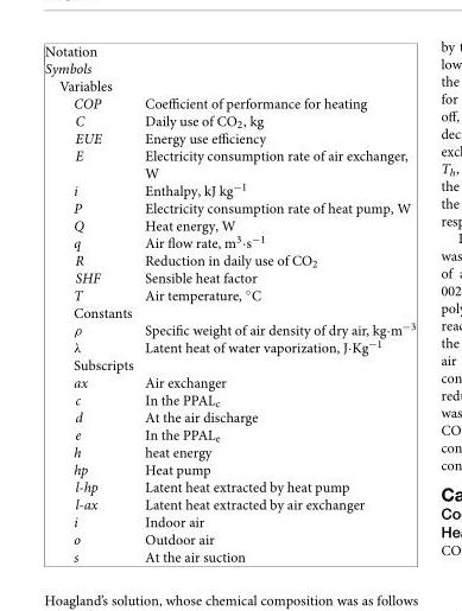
<table><tbody><tr><td colspan="2">Notation</td></tr><tr><td colspan="2">Symbols</td></tr><tr><td colspan="2">Variables</td></tr><tr><td>COP</td><td>Coefficient of performance for heating</td></tr><tr><td>C</td><td>Daily use of CO<sub>2</sub>, kg</td></tr><tr><td>EUE</td><td>Energy use efficiency</td></tr><tr><td>E</td><td>Electricity consumption rate of air exchanger, W</td></tr><tr><td>i</td><td>Enthalpy, kJ kg<sup>−1</sup></td></tr><tr><td>P</td><td>Electricity consumption rate of heat pump, W</td></tr><tr><td>Q</td><td>Heat energy, W</td></tr><tr><td>q</td><td>Air flow rate, m<sup>3</sup>·s<sup>−1</sup></td></tr><tr><td>R</td><td>Reduction in daily use of CO<sub>2</sub></td></tr><tr><td>SHF</td><td>Sensible heat factor</td></tr><tr><td>T</td><td>Air temperature, ◦C</td></tr><tr><td colspan="2">Constants</td></tr><tr><td>ρ</td><td>Specific weight of air density of dry air, kg·m<sup>−3</sup></td></tr><tr><td>λ</td><td>Latent heat of water vaporization, J·Kg<sup>−1</sup></td></tr><tr><td colspan="2">Subscripts</td></tr><tr><td>ax</td><td>Air exchanger</td></tr><tr><td>c</td><td>In the PPAL<sub>c</sub></td></tr><tr><td>d</td><td>At the air discharge</td></tr><tr><td>e</td><td>In the PPAL<sub>e</sub></td></tr><tr><td>h</td><td>heat energy</td></tr><tr><td>hp</td><td>Heat pump</td></tr><tr><td>l-hp</td><td>Latent heat extracted by heat pump</td></tr><tr><td>l-ax</td><td>Latent heat extracted by air exchanger</td></tr><tr><td>i</td><td>Indoor air</td></tr><tr><td>o</td><td>Outdoor air</td></tr><tr><td>s</td><td>At the air suction</td></tr></tbody></table>